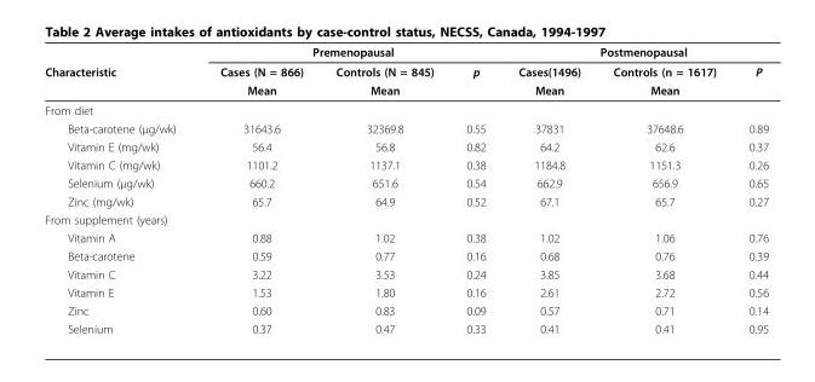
<table><thead><tr><td rowspan="3">Characteristic</td><td colspan="3">Premenopausal</td><td colspan="3">Postmenopausal</td></tr><tr><td rowspan="2">Cases (N = 866) Mean</td><td rowspan="2">Controls (N = 845) Mean</td><td rowspan="2">p</td><td rowspan="2">Cases(1496) Mean</td><td rowspan="2">Controls (n = 1617) Mean</td><td rowspan="2">P</td></tr><tr></tr></thead><tbody><tr><td colspan="7">From diet</td></tr><tr><td>Beta-carotene (μg/wk)</td><td>31643.6</td><td>32369.8</td><td>0.55</td><td>37831</td><td>37648.6</td><td>0.89</td></tr><tr><td>Vitamin E (mg/wk)</td><td>56.4</td><td>56.8</td><td>0.82</td><td>64.2</td><td>62.6</td><td>0.37</td></tr><tr><td>Vitamin C (mg/wk)</td><td>1101.2</td><td>1137.1</td><td>0.38</td><td>1184.8</td><td>1151.3</td><td>0.26</td></tr><tr><td>Selenium (μg/wk)</td><td>660.2</td><td>651.6</td><td>0.54</td><td>662.9</td><td>656.9</td><td>0.65</td></tr><tr><td>Zinc (mg/wk)</td><td>65.7</td><td>64.9</td><td>0.52</td><td>67.1</td><td>65.7</td><td>0.27</td></tr><tr><td colspan="7">From supplement (years)</td></tr><tr><td>Vitamin A</td><td>0.88</td><td>1.02</td><td>0.38</td><td>1.02</td><td>1.06</td><td>0.76</td></tr><tr><td>Beta-carotene</td><td>0.59</td><td>0.77</td><td>0.16</td><td>0.68</td><td>0.76</td><td>0.39</td></tr><tr><td>Vitamin C</td><td>3.22</td><td>3.53</td><td>0.24</td><td>3.85</td><td>3.68</td><td>0.44</td></tr><tr><td>Vitamin E</td><td>1.53</td><td>1.80</td><td>0.16</td><td>2.61</td><td>2.72</td><td>0.56</td></tr><tr><td>Zinc</td><td>0.60</td><td>0.83</td><td>0.09</td><td>0.57</td><td>0.71</td><td>0.14</td></tr><tr><td>Selenium</td><td>0.37</td><td>0.47</td><td>0.33</td><td>0.41</td><td>0.41</td><td>0.95</td></tr></tbody></table>